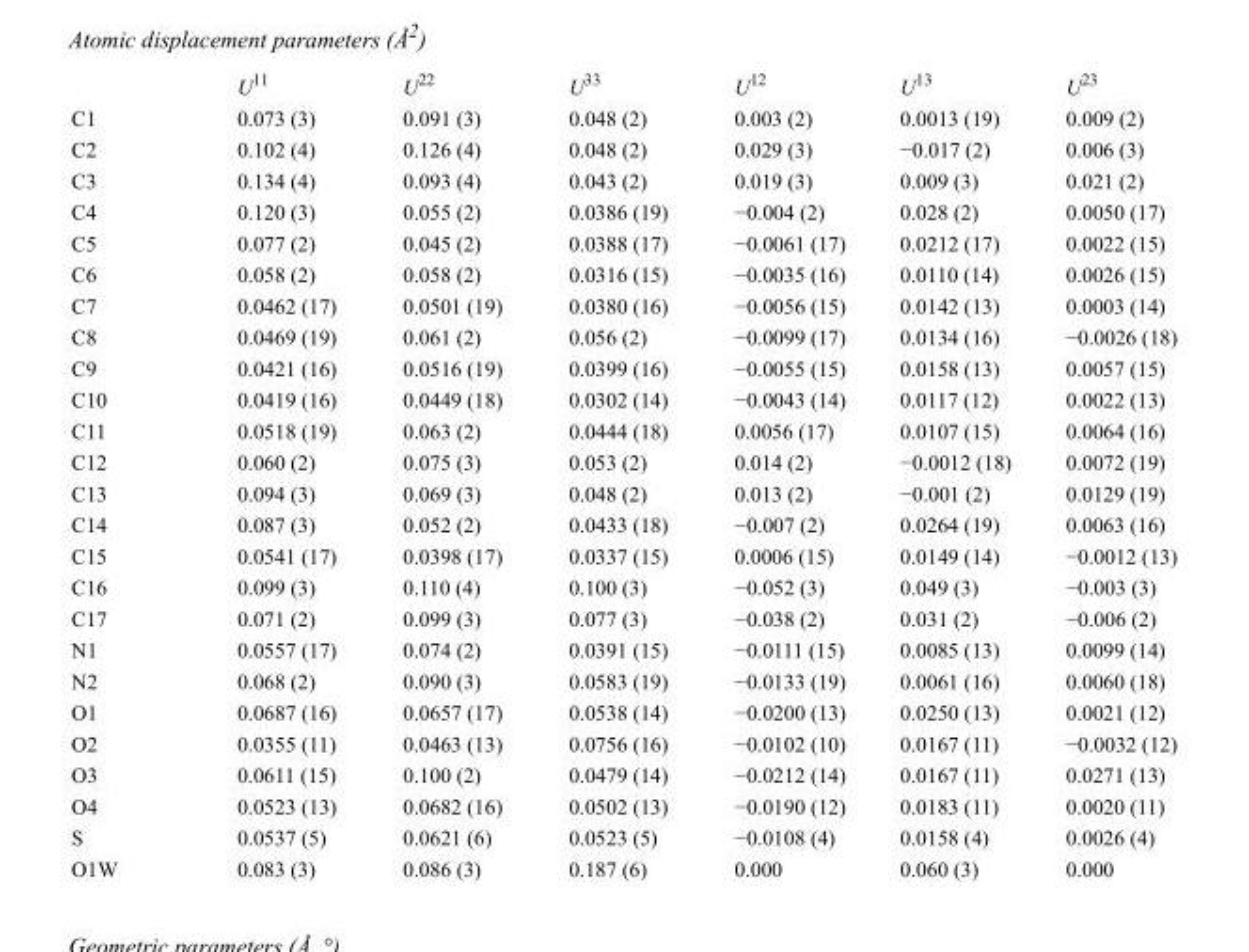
<table><thead><tr><td></td><td>U<sup>11</sup></td><td>U<sup>22</sup></td><td>U<sup>33</sup></td><td>U<sup>12</sup></td><td>U<sup>13</sup></td><td>U<sup>23</sup></td></tr></thead><tbody><tr><td>C1</td><td>0.073 (3)</td><td>0.091 (3)</td><td>0.048 (2)</td><td>0.003 (2)</td><td>0.0013 (19)</td><td>0.009 (2)</td></tr><tr><td>C2</td><td>0.102 (4)</td><td>0.126 (4)</td><td>0.048 (2)</td><td>0.029 (3)</td><td>−0.017 (2)</td><td>0.006 (3)</td></tr><tr><td>C3</td><td>0.134 (4)</td><td>0.093 (4)</td><td>0.043 (2)</td><td>0.019 (3)</td><td>0.009 (3)</td><td>0.021 (2)</td></tr><tr><td>C4</td><td>0.120 (3)</td><td>0.055 (2)</td><td>0.0386 (19)</td><td>−0.004 (2)</td><td>0.028 (2)</td><td>0.0050 (17)</td></tr><tr><td>C5</td><td>0.077 (2)</td><td>0.045 (2)</td><td>0.0388 (17)</td><td>−0.0061 (17)</td><td>0.0212 (17)</td><td>0.0022 (15)</td></tr><tr><td>C6</td><td>0.058 (2)</td><td>0.058 (2)</td><td>0.0316 (15)</td><td>−0.0035 (16)</td><td>0.0110 (14)</td><td>0.0026 (15)</td></tr><tr><td>C7</td><td>0.0462 (17)</td><td>0.0501 (19)</td><td>0.0380 (16)</td><td>−0.0056 (15)</td><td>0.0142 (13)</td><td>0.0003 (14)</td></tr><tr><td>C8</td><td>0.0469 (19)</td><td>0.061 (2)</td><td>0.056 (2)</td><td>−0.0099 (17)</td><td>0.0134 (16)</td><td>−0.0026 (18)</td></tr><tr><td>C9</td><td>0.0421 (16)</td><td>0.0516 (19)</td><td>0.0399 (16)</td><td>−0.0055 (15)</td><td>0.0158 (13)</td><td>0.0057 (15)</td></tr><tr><td>C10</td><td>0.0419 (16)</td><td>0.0449 (18)</td><td>0.0302 (14)</td><td>−0.0043 (14)</td><td>0.0117 (12)</td><td>0.0022 (13)</td></tr><tr><td>C11</td><td>0.0518 (19)</td><td>0.063 (2)</td><td>0.0444 (18)</td><td>0.0056 (17)</td><td>0.0107 (15)</td><td>0.0064 (16)</td></tr><tr><td>C12</td><td>0.060 (2)</td><td>0.075 (3)</td><td>0.053 (2)</td><td>0.014 (2)</td><td>−0.0012 (18)</td><td>0.0072 (19)</td></tr><tr><td>C13</td><td>0.094 (3)</td><td>0.069 (3)</td><td>0.048 (2)</td><td>0.013 (2)</td><td>−0.001 (2)</td><td>0.0129 (19)</td></tr><tr><td>C14</td><td>0.087 (3)</td><td>0.052 (2)</td><td>0.0433 (18)</td><td>−0.007 (2)</td><td>0.0264 (19)</td><td>0.0063 (16)</td></tr><tr><td>C15</td><td>0.0541 (17)</td><td>0.0398 (17)</td><td>0.0337 (15)</td><td>0.0006 (15)</td><td>0.0149 (14)</td><td>−0.0012 (13)</td></tr><tr><td>C16</td><td>0.099 (3)</td><td>0.110 (4)</td><td>0.100 (3)</td><td>−0.052 (3)</td><td>0.049 (3)</td><td>−0.003 (3)</td></tr><tr><td>C17</td><td>0.071 (2)</td><td>0.099 (3)</td><td>0.077 (3)</td><td>−0.038 (2)</td><td>0.031 (2)</td><td>−0.006 (2)</td></tr><tr><td>N1</td><td>0.0557 (17)</td><td>0.074 (2)</td><td>0.0391 (15)</td><td>−0.0111 (15)</td><td>0.0085 (13)</td><td>0.0099 (14)</td></tr><tr><td>N2</td><td>0.068 (2)</td><td>0.090 (3)</td><td>0.0583 (19)</td><td>−0.0133 (19)</td><td>0.0061 (16)</td><td>0.0060 (18)</td></tr><tr><td>O1</td><td>0.0687 (16)</td><td>0.0657 (17)</td><td>0.0538 (14)</td><td>−0.0200 (13)</td><td>0.0250 (13)</td><td>0.0021 (12)</td></tr><tr><td>O2</td><td>0.0355 (11)</td><td>0.0463 (13)</td><td>0.0756 (16)</td><td>−0.0102 (10)</td><td>0.0167 (11)</td><td>−0.0032 (12)</td></tr><tr><td>O3</td><td>0.0611 (15)</td><td>0.100 (2)</td><td>0.0479 (14)</td><td>−0.0212 (14)</td><td>0.0167 (11)</td><td>0.0271 (13)</td></tr><tr><td>O4</td><td>0.0523 (13)</td><td>0.0682 (16)</td><td>0.0502 (13)</td><td>−0.0190 (12)</td><td>0.0183 (11)</td><td>0.0020 (11)</td></tr><tr><td>S</td><td>0.0537 (5)</td><td>0.0621 (6)</td><td>0.0523 (5)</td><td>−0.0108 (4)</td><td>0.0158 (4)</td><td>0.0026 (4)</td></tr><tr><td>O1W</td><td>0.083 (3)</td><td>0.086 (3)</td><td>0.187 (6)</td><td>0.000</td><td>0.060 (3)</td><td>0.000</td></tr></tbody></table>